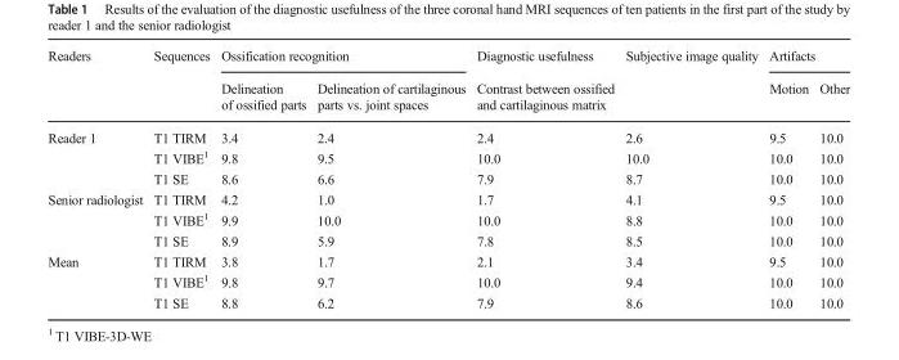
<table><thead><tr><td rowspan="2">Readers</td><td rowspan="2">Sequences</td><td colspan="2">Ossification recognition</td><td rowspan="2">Diagnostic usefulness Contrast between ossified and cartilaginous matrix</td><td rowspan="2">Subjective image quality</td><td colspan="2">Artifacts</td></tr><tr><td>Delineation of ossified parts</td><td>Delineation of cartilaginous parts vs. joint spaces</td><td>Motion</td><td>Other</td></tr></thead><tbody><tr><td rowspan="3">Reader 1</td><td>T1 TIRM</td><td>3.4</td><td>2.4</td><td>2.4</td><td>2.6</td><td>9.5</td><td>10.0</td></tr><tr><td>T1 VIBE<sup>1</sup></td><td>9.8</td><td>9.5</td><td>10.0</td><td>10.0</td><td>10.0</td><td>10.0</td></tr><tr><td>T1 SE</td><td>8.6</td><td>6.6</td><td>7.9</td><td>8.7</td><td>10.0</td><td>10.0</td></tr><tr><td rowspan="3">Senior radiologist</td><td>T1 TIRM</td><td>4.2</td><td>1.0</td><td>1.7</td><td>4.1</td><td>9.5</td><td>10.0</td></tr><tr><td>T1 VIBE<sup>1</sup></td><td>9.9</td><td>10.0</td><td>10.0</td><td>8.8</td><td>10.0</td><td>10.0</td></tr><tr><td>T1 SE</td><td>8.9</td><td>5.9</td><td>7.8</td><td>8.5</td><td>10.0</td><td>10.0</td></tr><tr><td rowspan="3">Mean</td><td>T1 TIRM</td><td>3.8</td><td>1.7</td><td>2.1</td><td>3.4</td><td>9.5</td><td>10.0</td></tr><tr><td>T1 VIBE<sup>1</sup></td><td>9.8</td><td>9.7</td><td>10.0</td><td>9.4</td><td>10.0</td><td>10.0</td></tr><tr><td>T1 SE</td><td>8.8</td><td>6.2</td><td>7.9</td><td>8.6</td><td>10.0</td><td>10.0</td></tr></tbody></table>